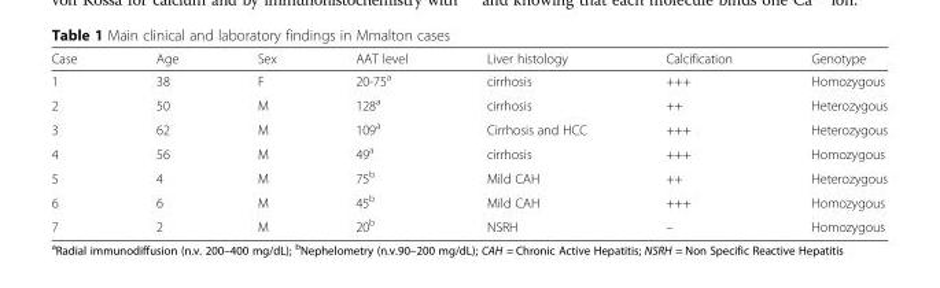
<table><thead><tr><td>Case</td><td>Age</td><td>Sex</td><td>AAT level</td><td>Liver histology</td><td>Calcification</td><td>Genotype</td></tr></thead><tbody><tr><td>1</td><td>38</td><td>F</td><td>20-75<sup>a</sup></td><td>cirrhosis</td><td>+++</td><td>Homozygous</td></tr><tr><td>2</td><td>50</td><td>M</td><td>128<sup>a</sup></td><td>cirrhosis</td><td>++</td><td>Heterozygous</td></tr><tr><td>3</td><td>62</td><td>M</td><td>109<sup>a</sup></td><td>Cirrhosis and HCC</td><td>+++</td><td>Heterozygous</td></tr><tr><td>4</td><td>56</td><td>M</td><td>49<sup>a</sup></td><td>cirrhosis</td><td>+++</td><td>Homozygous</td></tr><tr><td>5</td><td>4</td><td>M</td><td>75<sup>b</sup></td><td>Mild CAH</td><td>++</td><td>Heterozygous</td></tr><tr><td>6</td><td>6</td><td>M</td><td>45<sup>b</sup></td><td>Mild CAH</td><td>+++</td><td>Homozygous</td></tr><tr><td>7</td><td>2</td><td>M</td><td>20<sup>b</sup></td><td>NSRH</td><td>–</td><td>Homozygous</td></tr></tbody></table>